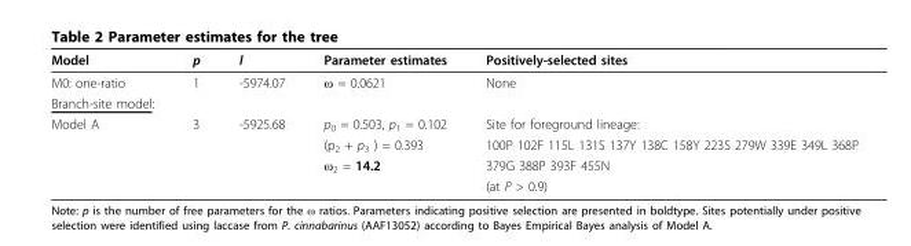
<table><thead><tr><td>Model</td><td>p</td><td>l</td><td>Parameter estimates</td><td>Positively-selected sites</td></tr></thead><tbody><tr><td>M0: one-ratio</td><td>1</td><td>-5974.07</td><td>ω = 0.0621</td><td>None</td></tr><tr><td colspan="5">Branch-site model:</td></tr><tr><td rowspan="4">Model A</td><td>3</td><td>-5925.68</td><td>p<sub>0</sub> = 0.503, p<sub>1</sub> = 0.102</td><td>Site for foreground lineage:</td></tr><tr><td></td><td></td><td>(p<sub>2</sub> + p<sub>3</sub> ) = 0.393</td><td>100P 102F 115L 131S 137Y 138C 158Y 223S 279W 339E 349L 368P</td></tr><tr><td></td><td></td><td>ω<sub>2</sub> = 14.2</td><td>379G 388P 393F 455N</td></tr><tr><td></td><td></td><td></td><td>(at P &gt; 0.9)</td></tr></tbody></table>